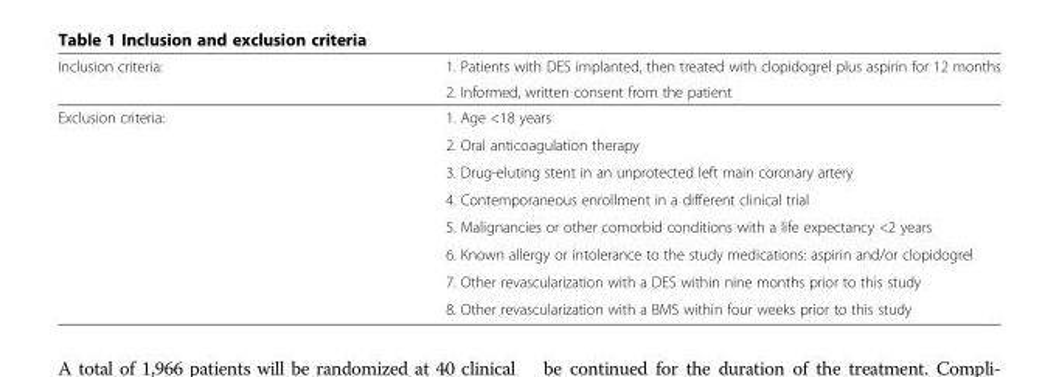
<table><thead><tr><td rowspan="2">Inclusion criteria:</td><td rowspan="2">1. Patients with DES implanted, then treated with clopidogrel plus aspirin for 12 months 2. Informed, written consent from the patient</td></tr><tr></tr></thead><tbody><tr><td rowspan="8">Exclusion criteria:</td><td>1. Age &lt;18 years</td></tr><tr><td>2. Oral anticoagulation therapy</td></tr><tr><td>3. Drug-eluting stent in an unprotected left main coronary artery</td></tr><tr><td>4. Contemporaneous enrollment in a different clinical trial</td></tr><tr><td>5. Malignancies or other comorbid conditions with a life expectancy &lt;2 years</td></tr><tr><td>6. Known allergy or intolerance to the study medications: aspirin and/or clopidogrel</td></tr><tr><td>7. Other revascularization with a DES within nine months prior to this study</td></tr><tr><td>8. Other revascularization with a BMS within four weeks prior to this study</td></tr></tbody></table>